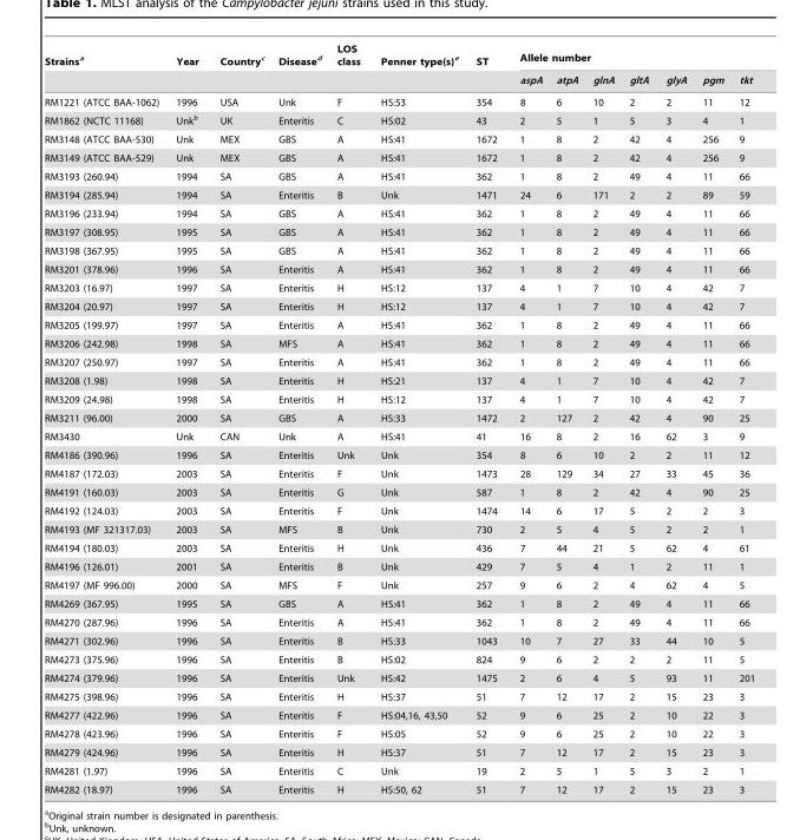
<table><thead><tr><td rowspan="2">Strains<sup>a</sup></td><td rowspan="2">Year</td><td rowspan="2">Country<sup>c</sup></td><td rowspan="2">Disease<sup>d</sup></td><td rowspan="2">LOS class</td><td rowspan="2">Penner type(s)<sup>e</sup></td><td rowspan="2">ST</td><td colspan="7">Allele number</td></tr><tr><td>aspA</td><td>atpA</td><td>glnA</td><td>gltA</td><td>glyA</td><td>pgm</td><td>tkt</td></tr></thead><tbody><tr><td>RM1221 (ATCC BAA-1062)</td><td>1996</td><td>USA</td><td>Unk</td><td>F</td><td>HS:53</td><td>354</td><td>8</td><td>6</td><td>10</td><td>2</td><td>2</td><td>11</td><td>12</td></tr><tr><td>RM1862 (NCTC 11168)</td><td>Unk<sup>b</sup></td><td>UK</td><td>Enteritis</td><td>C</td><td>HS:02</td><td>43</td><td>2</td><td>5</td><td>1</td><td>5</td><td>3</td><td>4</td><td>1</td></tr><tr><td>RM3148 (ATCC BAA-530)</td><td>Unk</td><td>MEX</td><td>GBS</td><td>A</td><td>HS:41</td><td>1672</td><td>1</td><td>8</td><td>2</td><td>42</td><td>4</td><td>256</td><td>9</td></tr><tr><td>RM3149 (ATCC BAA-529)</td><td>Unk</td><td>MEX</td><td>GBS</td><td>A</td><td>HS:41</td><td>1672</td><td>1</td><td>8</td><td>2</td><td>42</td><td>4</td><td>256</td><td>9</td></tr><tr><td>RM3193 (260.94)</td><td>1994</td><td>SA</td><td>GBS</td><td>A</td><td>HS:41</td><td>362</td><td>1</td><td>8</td><td>2</td><td>49</td><td>4</td><td>11</td><td>66</td></tr><tr><td>RM3194 (285.94)</td><td>1994</td><td>SA</td><td>Enteritis</td><td>B</td><td>Unk</td><td>1471</td><td>24</td><td>6</td><td>171</td><td>2</td><td>2</td><td>89</td><td>59</td></tr><tr><td>RM3196 (233.94)</td><td>1994</td><td>SA</td><td>GBS</td><td>A</td><td>HS:41</td><td>362</td><td>1</td><td>8</td><td>2</td><td>49</td><td>4</td><td>11</td><td>66</td></tr><tr><td>RM3197 (308.95)</td><td>1995</td><td>SA</td><td>GBS</td><td>A</td><td>HS:41</td><td>362</td><td>1</td><td>8</td><td>2</td><td>49</td><td>4</td><td>11</td><td>66</td></tr><tr><td>RM3198 (367.95)</td><td>1995</td><td>SA</td><td>GBS</td><td>A</td><td>HS:41</td><td>362</td><td>1</td><td>8</td><td>2</td><td>49</td><td>4</td><td>11</td><td>66</td></tr><tr><td>RM3201 (378.96)</td><td>1996</td><td>SA</td><td>Enteritis</td><td>A</td><td>HS:41</td><td>362</td><td>1</td><td>8</td><td>2</td><td>49</td><td>4</td><td>11</td><td>66</td></tr><tr><td>RM3203 (16.97)</td><td>1997</td><td>SA</td><td>Enteritis</td><td>H</td><td>HS:12</td><td>137</td><td>4</td><td>1</td><td>7</td><td>10</td><td>4</td><td>42</td><td>7</td></tr><tr><td>RM3204 (20.97)</td><td>1997</td><td>SA</td><td>Enteritis</td><td>H</td><td>HS:12</td><td>137</td><td>4</td><td>1</td><td>7</td><td>10</td><td>4</td><td>42</td><td>7</td></tr><tr><td>RM3205 (199.97)</td><td>1997</td><td>SA</td><td>Enteritis</td><td>A</td><td>HS:41</td><td>362</td><td>1</td><td>8</td><td>2</td><td>49</td><td>4</td><td>11</td><td>66</td></tr><tr><td>RM3206 (242.98)</td><td>1998</td><td>SA</td><td>MFS</td><td>A</td><td>HS:41</td><td>362</td><td>1</td><td>8</td><td>2</td><td>49</td><td>4</td><td>11</td><td>66</td></tr><tr><td>RM3207 (250.97)</td><td>1997</td><td>SA</td><td>Enteritis</td><td>A</td><td>HS:41</td><td>362</td><td>1</td><td>8</td><td>2</td><td>49</td><td>4</td><td>11</td><td>66</td></tr><tr><td>RM3208 (1.98)</td><td>1998</td><td>SA</td><td>Enteritis</td><td>H</td><td>HS:21</td><td>137</td><td>4</td><td>1</td><td>7</td><td>10</td><td>4</td><td>42</td><td>7</td></tr><tr><td>RM3209 (24.98)</td><td>1998</td><td>SA</td><td>Enteritis</td><td>H</td><td>HS:12</td><td>137</td><td>4</td><td>1</td><td>7</td><td>10</td><td>4</td><td>42</td><td>7</td></tr><tr><td>RM3211 (96.00)</td><td>2000</td><td>SA</td><td>GBS</td><td>A</td><td>HS:33</td><td>1472</td><td>2</td><td>127</td><td>2</td><td>42</td><td>4</td><td>90</td><td>25</td></tr><tr><td>RM3430</td><td>Unk</td><td>CAN</td><td>Unk</td><td>A</td><td>HS:41</td><td>41</td><td>16</td><td>8</td><td>2</td><td>16</td><td>62</td><td>3</td><td>9</td></tr><tr><td>RM4186 (390.96)</td><td>1996</td><td>SA</td><td>Enteritis</td><td>Unk</td><td>Unk</td><td>354</td><td>8</td><td>6</td><td>10</td><td>2</td><td>2</td><td>11</td><td>12</td></tr><tr><td>RM4187 (172.03)</td><td>2003</td><td>SA</td><td>Enteritis</td><td>F</td><td>Unk</td><td>1473</td><td>28</td><td>129</td><td>34</td><td>27</td><td>33</td><td>45</td><td>36</td></tr><tr><td>RM4191 (160.03)</td><td>2003</td><td>SA</td><td>Enteritis</td><td>G</td><td>Unk</td><td>587</td><td>1</td><td>8</td><td>2</td><td>42</td><td>4</td><td>90</td><td>25</td></tr><tr><td>RM4192 (124.03)</td><td>2003</td><td>SA</td><td>Enteritis</td><td>F</td><td>Unk</td><td>1474</td><td>14</td><td>6</td><td>17</td><td>5</td><td>2</td><td>2</td><td>3</td></tr><tr><td>RM4193 (MF 321317.03)</td><td>2003</td><td>SA</td><td>MFS</td><td>B</td><td>Unk</td><td>730</td><td>2</td><td>5</td><td>4</td><td>5</td><td>2</td><td>2</td><td>1</td></tr><tr><td>RM4194 (180.03)</td><td>2003</td><td>SA</td><td>Enteritis</td><td>H</td><td>Unk</td><td>436</td><td>7</td><td>44</td><td>21</td><td>5</td><td>62</td><td>4</td><td>61</td></tr><tr><td>RM4196 (126.01)</td><td>2001</td><td>SA</td><td>Enteritis</td><td>B</td><td>Unk</td><td>429</td><td>7</td><td>5</td><td>4</td><td>1</td><td>2</td><td>11</td><td>1</td></tr><tr><td>RM4197 (MF 996.00)</td><td>2000</td><td>SA</td><td>MFS</td><td>F</td><td>Unk</td><td>257</td><td>9</td><td>6</td><td>2</td><td>4</td><td>62</td><td>4</td><td>5</td></tr><tr><td>RM4269 (367.95)</td><td>1995</td><td>SA</td><td>GBS</td><td>A</td><td>HS:41</td><td>362</td><td>1</td><td>8</td><td>2</td><td>49</td><td>4</td><td>11</td><td>66</td></tr><tr><td>RM4270 (287.96)</td><td>1996</td><td>SA</td><td>Enteritis</td><td>A</td><td>HS:41</td><td>362</td><td>1</td><td>8</td><td>2</td><td>49</td><td>4</td><td>11</td><td>66</td></tr><tr><td>RM4271 (302.96)</td><td>1996</td><td>SA</td><td>Enteritis</td><td>B</td><td>HS:33</td><td>1043</td><td>10</td><td>7</td><td>27</td><td>33</td><td>44</td><td>10</td><td>5</td></tr><tr><td>RM4273 (375.96)</td><td>1996</td><td>SA</td><td>Enteritis</td><td>B</td><td>HS:02</td><td>824</td><td>9</td><td>6</td><td>2</td><td>2</td><td>2</td><td>11</td><td>5</td></tr><tr><td>RM4274 (379.96)</td><td>1996</td><td>SA</td><td>Enteritis</td><td>Unk</td><td>HS:42</td><td>1475</td><td>2</td><td>6</td><td>4</td><td>5</td><td>93</td><td>11</td><td>201</td></tr><tr><td>RM4275 (398.96)</td><td>1996</td><td>SA</td><td>Enteritis</td><td>H</td><td>HS:37</td><td>51</td><td>7</td><td>12</td><td>17</td><td>2</td><td>15</td><td>23</td><td>3</td></tr><tr><td>RM4277 (422.96)</td><td>1996</td><td>SA</td><td>Enteritis</td><td>F</td><td>HS:04,16, 43,50</td><td>52</td><td>9</td><td>6</td><td>25</td><td>2</td><td>10</td><td>22</td><td>3</td></tr><tr><td>RM4278 (423.96)</td><td>1996</td><td>SA</td><td>Enteritis</td><td>F</td><td>HS:05</td><td>52</td><td>9</td><td>6</td><td>25</td><td>2</td><td>10</td><td>22</td><td>3</td></tr><tr><td>RM4279 (424.96)</td><td>1996</td><td>SA</td><td>Enteritis</td><td>H</td><td>HS:37</td><td>51</td><td>7</td><td>12</td><td>17</td><td>2</td><td>15</td><td>23</td><td>3</td></tr><tr><td>RM4281 (1.97)</td><td>1996</td><td>SA</td><td>Enteritis</td><td>C</td><td>Unk</td><td>19</td><td>2</td><td>5</td><td>1</td><td>5</td><td>3</td><td>2</td><td>1</td></tr><tr><td>RM4282 (18.97)</td><td>1996</td><td>SA</td><td>Enteritis</td><td>H</td><td>HS:50, 62</td><td>51</td><td>7</td><td>12</td><td>17</td><td>2</td><td>15</td><td>23</td><td>3</td></tr></tbody></table>